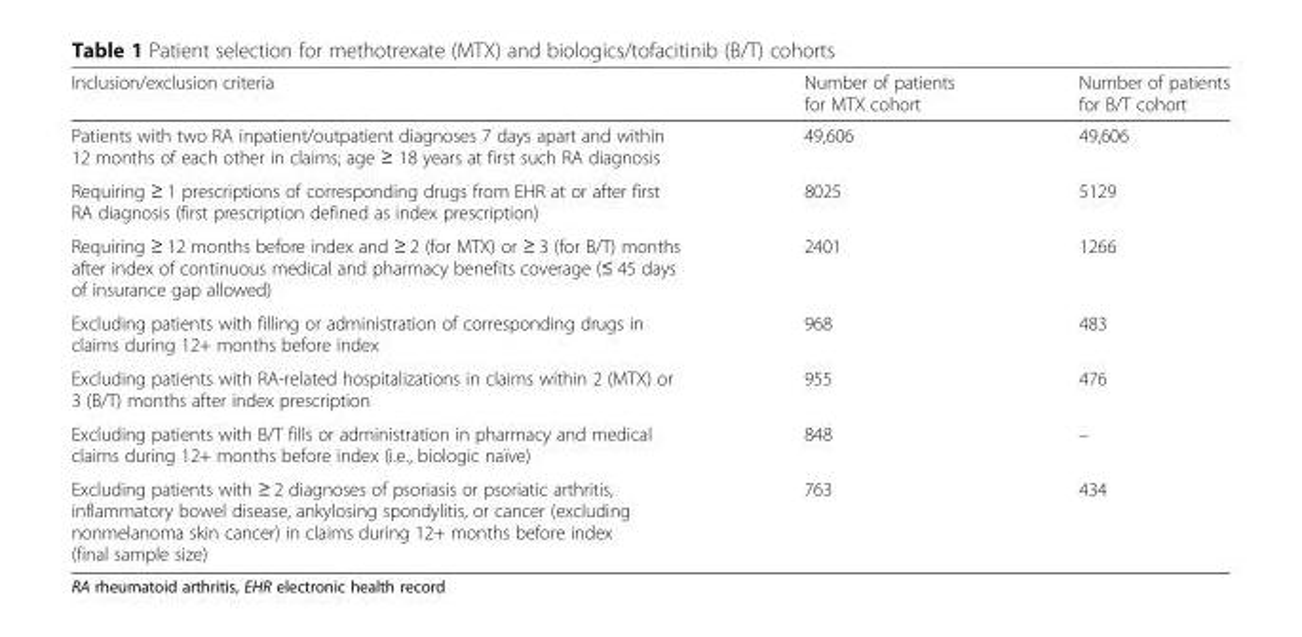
<table><thead><tr><td>Inclusion/exclusion criteria</td><td>Number of patients for MTX cohort</td><td>Number of patients for B/T cohort</td></tr></thead><tbody><tr><td>Patients with two RA inpatient/outpatient diagnoses 7 days apart and within 12 months of each other in claims; age ≥ 18 years at first such RA diagnosis</td><td>49,606</td><td>49,606</td></tr><tr><td>Requiring ≥ 1 prescriptions of corresponding drugs from EHR at or after first RA diagnosis (first prescription defined as index prescription)</td><td>8025</td><td>5129</td></tr><tr><td>Requiring ≥ 12 months before index and ≥ 2 (for MTX) or ≥ 3 (for B/T) months after index of continuous medical and pharmacy benefits coverage (≤ 45 days of insurance gap allowed)</td><td>2401</td><td>1266</td></tr><tr><td>Excluding patients with filling or administration of corresponding drugs in claims during 12+ months before index</td><td>968</td><td>483</td></tr><tr><td>Excluding patients with RA-related hospitalizations in claims within 2 (MTX) or 3 (B/T) months after index prescription</td><td>955</td><td>476</td></tr><tr><td>Excluding patients with B/T fills or administration in pharmacy and medical claims during 12+ months before index (i.e., biologic naïve)</td><td>848</td><td>–</td></tr><tr><td>Excluding patients with ≥ 2 diagnoses of psoriasis or psoriatic arthritis, inflammatory bowel disease, ankylosing spondylitis, or cancer (excluding nonmelanoma skin cancer) in claims during 12+ months before index (final sample size)</td><td>763</td><td>434</td></tr></tbody></table>